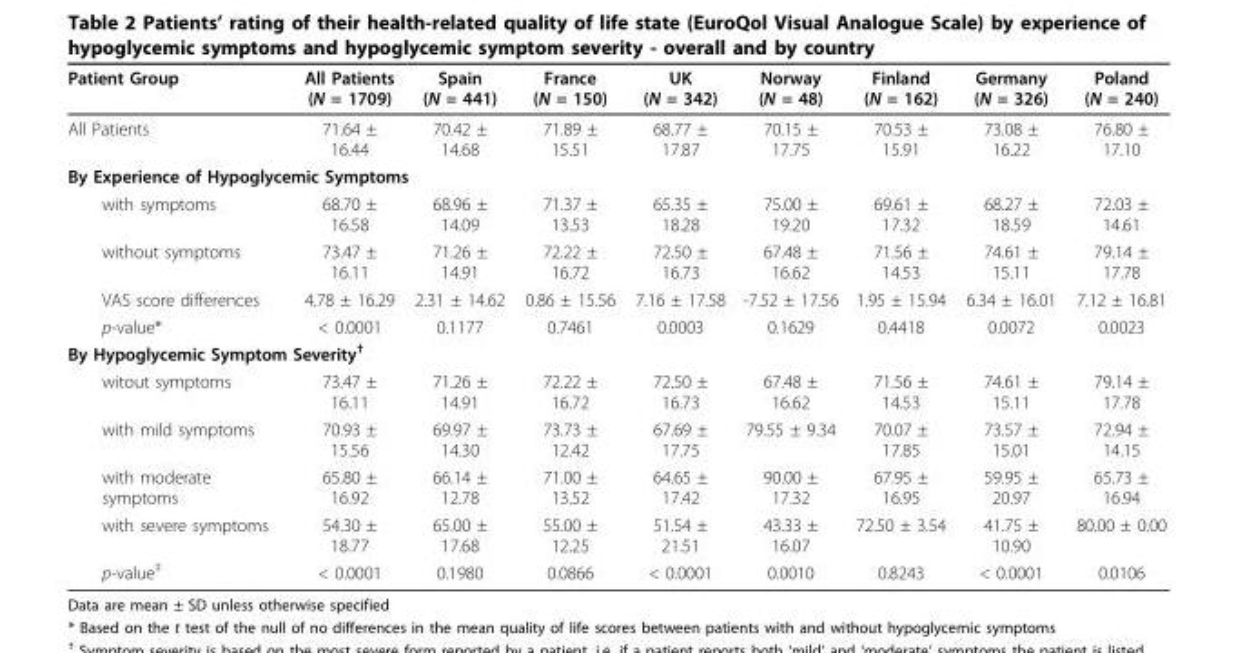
<table><thead><tr><td>Patient Group</td><td>All Patients (N = 1709)</td><td>Spain (N = 441)</td><td>France (N = 150)</td><td>UK (N = 342)</td><td>Norway (N = 48)</td><td>Finland (N = 162)</td><td>Germany (N = 326)</td><td>Poland (N = 240)</td></tr></thead><tbody><tr><td>All Patients</td><td>71.64 ± 16.44</td><td>70.42 ± 14.68</td><td>71.89 ± 15.51</td><td>68.77 ± 17.87</td><td>70.15 ± 17.75</td><td>70.53 ± 15.91</td><td>73.08 ± 16.22</td><td>76.80 ± 17.10</td></tr><tr><td colspan="9">By Experience of Hypoglycemic Symptoms</td></tr><tr><td>with symptoms</td><td>68.70 ± 16.58</td><td>68.96 ± 14.09</td><td>71.37 ± 13.53</td><td>65.35 ± 18.28</td><td>75.00 ± 19.20</td><td>69.61 ± 17.32</td><td>68.27 ± 18.59</td><td>72.03 ± 14.61</td></tr><tr><td>without symptoms</td><td>73.47 ± 16.11</td><td>71.26 ± 14.91</td><td>72.22 ± 16.72</td><td>72.50 ± 16.73</td><td>67.48 ± 16.62</td><td>71.56 ± 14.53</td><td>74.61 ± 15.11</td><td>79.14 ± 17.78</td></tr><tr><td>VAS score differences</td><td>4.78 ± 16.29</td><td>2.31 ± 14.62</td><td>0.86 ± 15.56</td><td>7.16 ± 17.58</td><td>-7.52 ± 17.56</td><td>1.95 ± 15.94</td><td>6.34 ± 16.01</td><td>7.12 ± 16.81</td></tr><tr><td>p-value*</td><td>&lt; 0.0001</td><td>0.1177</td><td>0.7461</td><td>0.0003</td><td>0.1629</td><td>0.4418</td><td>0.0072</td><td>0.0023</td></tr><tr><td colspan="9">By Hypoglycemic Symptom Severity<sup>†</sup></td></tr><tr><td>witout symptoms</td><td>73.47 ± 16.11</td><td>71.26 ± 14.91</td><td>72.22 ± 16.72</td><td>72.50 ± 16.73</td><td>67.48 ± 16.62</td><td>71.56 ± 14.53</td><td>74.61 ± 15.11</td><td>79.14 ± 17.78</td></tr><tr><td>with mild symptoms</td><td>70.93 ± 15.56</td><td>69.97 ± 14.30</td><td>73.73 ± 12.42</td><td>67.69 ± 17.75</td><td>79.55 ± 9.34</td><td>70.07 ± 17.85</td><td>73.57 ± 15.01</td><td>72.94 ± 14.15</td></tr><tr><td>with moderate symptoms</td><td>65.80 ± 16.92</td><td>66.14 ± 12.78</td><td>71.00 ± 13.52</td><td>64.65 ± 17.42</td><td>90.00 ± 17.32</td><td>67.95 ± 16.95</td><td>59.95 ± 20.97</td><td>65.73 ± 16.94</td></tr><tr><td>with severe symptoms</td><td>54.30 ± 18.77</td><td>65.00 ± 17.68</td><td>55.00 ± 12.25</td><td>51.54 ± 21.51</td><td>43.33 ± 16.07</td><td>72.50 ± 3.54</td><td>41.75 ± 10.90</td><td>80.00 ± 0.00</td></tr><tr><td>p-value<sup>‡</sup></td><td>&lt; 0.0001</td><td>0.1980</td><td>0.0866</td><td>&lt; 0.0001</td><td>0.0010</td><td>0.8243</td><td>&lt; 0.0001</td><td>0.0106</td></tr></tbody></table>